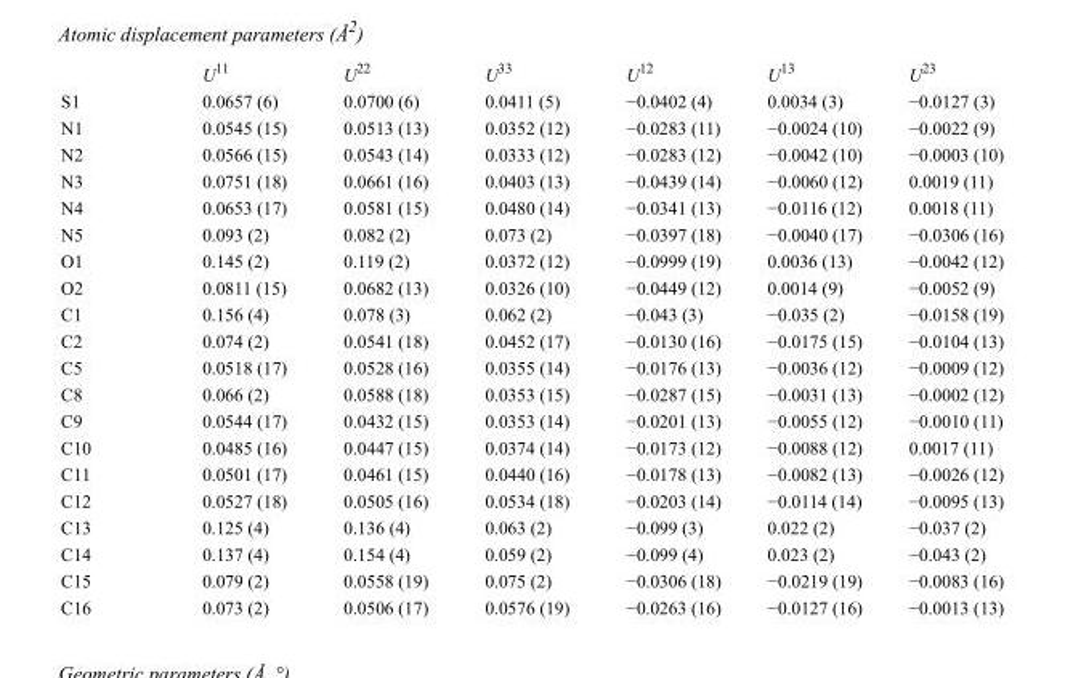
<table><thead><tr><td></td><td>U<sup>11</sup></td><td>U<sup>22</sup></td><td>U<sup>33</sup></td><td>U<sup>12</sup></td><td>U<sup>13</sup></td><td>U<sup>23</sup></td></tr></thead><tbody><tr><td>S1</td><td>0.0657 (6)</td><td>0.0700 (6)</td><td>0.0411 (5)</td><td>−0.0402 (4)</td><td>0.0034 (3)</td><td>−0.0127 (3)</td></tr><tr><td>N1</td><td>0.0545 (15)</td><td>0.0513 (13)</td><td>0.0352 (12)</td><td>−0.0283 (11)</td><td>−0.0024 (10)</td><td>−0.0022 (9)</td></tr><tr><td>N2</td><td>0.0566 (15)</td><td>0.0543 (14)</td><td>0.0333 (12)</td><td>−0.0283 (12)</td><td>−0.0042 (10)</td><td>−0.0003 (10)</td></tr><tr><td>N3</td><td>0.0751 (18)</td><td>0.0661 (16)</td><td>0.0403 (13)</td><td>−0.0439 (14)</td><td>−0.0060 (12)</td><td>0.0019 (11)</td></tr><tr><td>N4</td><td>0.0653 (17)</td><td>0.0581 (15)</td><td>0.0480 (14)</td><td>−0.0341 (13)</td><td>−0.0116 (12)</td><td>0.0018 (11)</td></tr><tr><td>N5</td><td>0.093 (2)</td><td>0.082 (2)</td><td>0.073 (2)</td><td>−0.0397 (18)</td><td>−0.0040 (17)</td><td>−0.0306 (16)</td></tr><tr><td>O1</td><td>0.145 (2)</td><td>0.119 (2)</td><td>0.0372 (12)</td><td>−0.0999 (19)</td><td>0.0036 (13)</td><td>−0.0042 (12)</td></tr><tr><td>O2</td><td>0.0811 (15)</td><td>0.0682 (13)</td><td>0.0326 (10)</td><td>−0.0449 (12)</td><td>0.0014 (9)</td><td>−0.0052 (9)</td></tr><tr><td>C1</td><td>0.156 (4)</td><td>0.078 (3)</td><td>0.062 (2)</td><td>−0.043 (3)</td><td>−0.035 (2)</td><td>−0.0158 (19)</td></tr><tr><td>C2</td><td>0.074 (2)</td><td>0.0541 (18)</td><td>0.0452 (17)</td><td>−0.0130 (16)</td><td>−0.0175 (15)</td><td>−0.0104 (13)</td></tr><tr><td>C5</td><td>0.0518 (17)</td><td>0.0528 (16)</td><td>0.0355 (14)</td><td>−0.0176 (13)</td><td>−0.0036 (12)</td><td>−0.0009 (12)</td></tr><tr><td>C8</td><td>0.066 (2)</td><td>0.0588 (18)</td><td>0.0353 (15)</td><td>−0.0287 (15)</td><td>−0.0031 (13)</td><td>−0.0002 (12)</td></tr><tr><td>C9</td><td>0.0544 (17)</td><td>0.0432 (15)</td><td>0.0353 (14)</td><td>−0.0201 (13)</td><td>−0.0055 (12)</td><td>−0.0010 (11)</td></tr><tr><td>C10</td><td>0.0485 (16)</td><td>0.0447 (15)</td><td>0.0374 (14)</td><td>−0.0173 (12)</td><td>−0.0088 (12)</td><td>0.0017 (11)</td></tr><tr><td>C11</td><td>0.0501 (17)</td><td>0.0461 (15)</td><td>0.0440 (16)</td><td>−0.0178 (13)</td><td>−0.0082 (13)</td><td>−0.0026 (12)</td></tr><tr><td>C12</td><td>0.0527 (18)</td><td>0.0505 (16)</td><td>0.0534 (18)</td><td>−0.0203 (14)</td><td>−0.0114 (14)</td><td>−0.0095 (13)</td></tr><tr><td>C13</td><td>0.125 (4)</td><td>0.136 (4)</td><td>0.063 (2)</td><td>−0.099 (3)</td><td>0.022 (2)</td><td>−0.037 (2)</td></tr><tr><td>C14</td><td>0.137 (4)</td><td>0.154 (4)</td><td>0.059 (2)</td><td>−0.099 (4)</td><td>0.023 (2)</td><td>−0.043 (2)</td></tr><tr><td>C15</td><td>0.079 (2)</td><td>0.0558 (19)</td><td>0.075 (2)</td><td>−0.0306 (18)</td><td>−0.0219 (19)</td><td>−0.0083 (16)</td></tr><tr><td>C16</td><td>0.073 (2)</td><td>0.0506 (17)</td><td>0.0576 (19)</td><td>−0.0263 (16)</td><td>−0.0127 (16)</td><td>−0.0013 (13)</td></tr></tbody></table>